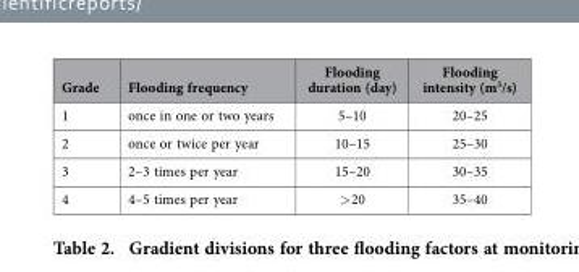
<table><thead><tr><td>Grade</td><td>Flooding frequency</td><td>Flooding duration (day)</td><td>Flooding intensity (m<sup>3</sup>/s)</td></tr></thead><tbody><tr><td>1</td><td>once in one or two years</td><td>5–10</td><td>20–25</td></tr><tr><td>2</td><td>once or twice per year</td><td>10–15</td><td>25–30</td></tr><tr><td>3</td><td>2–3 times per year</td><td>15–20</td><td>30–35</td></tr><tr><td>4</td><td>4–5 times per year</td><td>&gt; 20</td><td>35–40</td></tr></tbody></table>